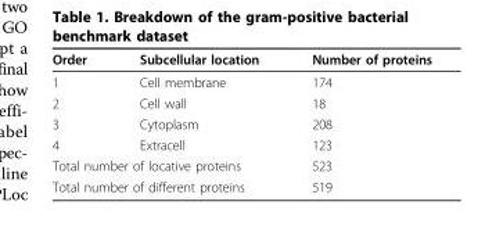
<table><thead><tr><td>Order</td><td>Subcellular location</td><td>Number of proteins</td></tr></thead><tbody><tr><td>1</td><td>Cell membrane</td><td>174</td></tr><tr><td>2</td><td>Cell wall</td><td>18</td></tr><tr><td>3</td><td>Cytoplasm</td><td>208</td></tr><tr><td>4</td><td>Extracell</td><td>123</td></tr><tr><td colspan="2">Total number of locative proteins</td><td>523</td></tr><tr><td colspan="2">Total number of different proteins</td><td>519</td></tr></tbody></table>